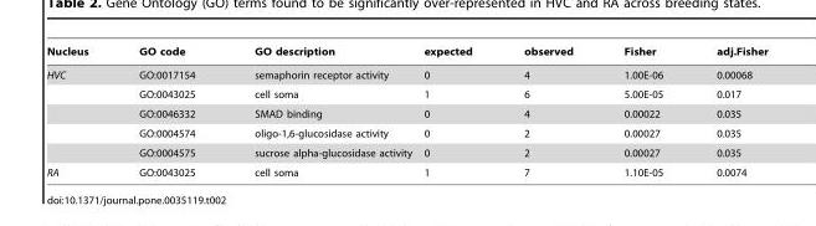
<table><thead><tr><td>Nucleus</td><td>GO code</td><td>GO description</td><td>expected</td><td>observed</td><td>Fisher</td><td>adj.Fisher</td></tr></thead><tbody><tr><td rowspan="5">HVC</td><td>GO:0017154</td><td>semaphorin receptor activity</td><td>0</td><td>4</td><td>1.00E-06</td><td>0.00068</td></tr><tr><td>GO:0043025</td><td>cell soma</td><td>1</td><td>6</td><td>5.00E-05</td><td>0.017</td></tr><tr><td>GO:0046332</td><td>SMAD binding</td><td>0</td><td>4</td><td>0.00022</td><td>0.035</td></tr><tr><td>GO:0004574</td><td>oligo-1,6-glucosidase activity</td><td>0</td><td>2</td><td>0.00027</td><td>0.035</td></tr><tr><td>GO:0004575</td><td>sucrose alpha-glucosidase activity</td><td>0</td><td>2</td><td>0.00027</td><td>0.035</td></tr><tr><td>RA</td><td>GO:0043025</td><td>cell soma</td><td>1</td><td>7</td><td>1.10E-05</td><td>0.0074</td></tr></tbody></table>